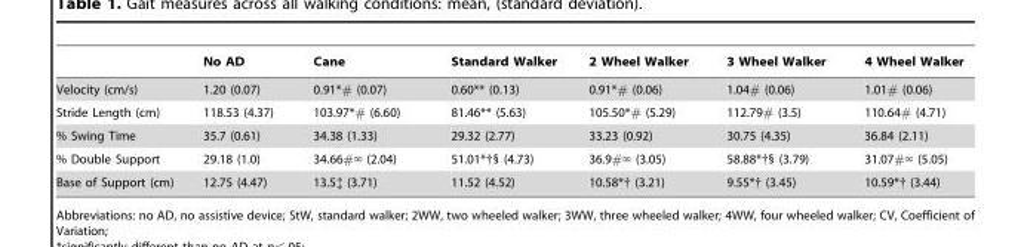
<table><thead><tr><td></td><td>No AD</td><td>Cane</td><td>Standard Walker</td><td>2 Wheel Walker</td><td>3 Wheel Walker</td><td>4 Wheel Walker</td></tr></thead><tbody><tr><td>Velocity (cm/s)</td><td>1.20 (0.07)</td><td>0.91*# (0.07)</td><td>0.60** (0.13)</td><td>0.91*# (0.06)</td><td>1.04# (0.06)</td><td>1.01# (0.06)</td></tr><tr><td>Stride Length (cm)</td><td>118.53 (4.37)</td><td>103.97*# (6.60)</td><td>81.46** (5.63)</td><td>105.50*# (5.29)</td><td>112.79# (3.5)</td><td>110.64# (4.71)</td></tr><tr><td>% Swing Time</td><td>35.7 (0.61)</td><td>34.38 (1.33)</td><td>29.32 (2.77)</td><td>33.23 (0.92)</td><td>30.75 (4.35)</td><td>36.84 (2.11)</td></tr><tr><td>% Double Support</td><td>29.18 (1.0)</td><td>34.66#‘ (2.04)</td><td>51.01*†§ (4.73)</td><td>36.9#‘ (3.05)</td><td>58.88*†§ (3.79)</td><td>31.07#‘ (5.05)</td></tr><tr><td>Base of Support (cm)</td><td>12.75 (4.47)</td><td>13.5‡ (3.71)</td><td>11.52 (4.52)</td><td>10.58*† (3.21)</td><td>9.55*† (3.45)</td><td>10.59*† (3.44)</td></tr></tbody></table>